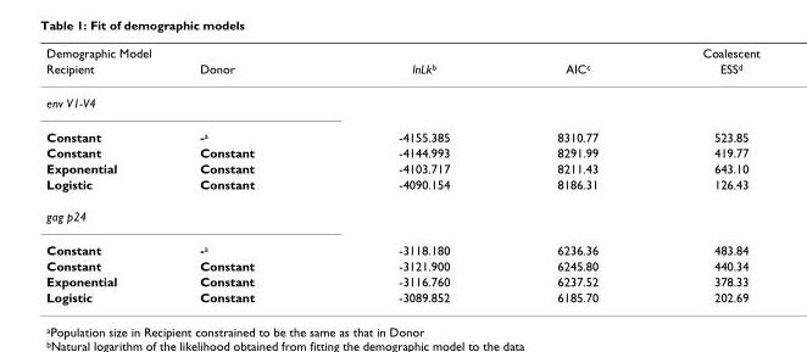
<table><thead><tr><td colspan="2">Demographic Model</td><td rowspan="2">lnLk<sup>b</sup></td><td rowspan="2">AIC<sup>c</sup></td><td rowspan="2">Coalescent ESS<sup>d</sup></td></tr><tr><td>Recipient</td><td>Donor</td></tr></thead><tbody><tr><td colspan="5">env V1-V4</td></tr><tr><td>Constant</td><td>-<sup>a</sup></td><td>-4155.385</td><td>8310.77</td><td>523.85</td></tr><tr><td>Constant</td><td>Constant</td><td>-4144.993</td><td>8291.99</td><td>419.77</td></tr><tr><td>Exponential</td><td>Constant</td><td>-4103.717</td><td>8211.43</td><td>643.10</td></tr><tr><td>Logistic</td><td>Constant</td><td>-4090.154</td><td>8186.31</td><td>126.43</td></tr><tr><td colspan="5">gag p24</td></tr><tr><td>Constant</td><td>-<sup>a</sup></td><td>-3118.180</td><td>6236.36</td><td>483.84</td></tr><tr><td>Constant</td><td>Constant</td><td>-3121.900</td><td>6245.80</td><td>440.34</td></tr><tr><td>Exponential</td><td>Constant</td><td>-3116.760</td><td>6237.52</td><td>378.33</td></tr><tr><td>Logistic</td><td>Constant</td><td>-3089.852</td><td>6185.70</td><td>202.69</td></tr></tbody></table>